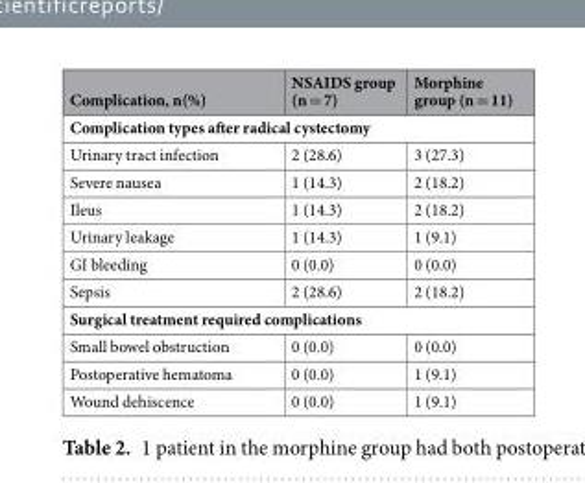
<table><thead><tr><td>Complication, n(%)</td><td>NSAIDS group (n = 7)</td><td>Morphine group (n = 11)</td></tr></thead><tbody><tr><td colspan="3">Complication types after radical cystectomy</td></tr><tr><td>Urinary tract infection</td><td>2 (28.6)</td><td>3 (27.3)</td></tr><tr><td>Severe nausea</td><td>1 (14.3)</td><td>2 (18.2)</td></tr><tr><td>Ileus</td><td>1 (14.3)</td><td>2 (18.2)</td></tr><tr><td>Urinary leakage</td><td>1 (14.3)</td><td>1 (9.1)</td></tr><tr><td>GI bleeding</td><td>0 (0.0)</td><td>0 (0.0)</td></tr><tr><td>Sepsis</td><td>2 (28.6)</td><td>2 (18.2)</td></tr><tr><td colspan="3">Surgical treatment required complications</td></tr><tr><td>Small bowel obstruction</td><td>0 (0.0)</td><td>0 (0.0)</td></tr><tr><td>Postoperative hematoma</td><td>0 (0.0)</td><td>1 (9.1)</td></tr><tr><td>Wound dehiscence</td><td>0 (0.0)</td><td>1 (9.1)</td></tr></tbody></table>